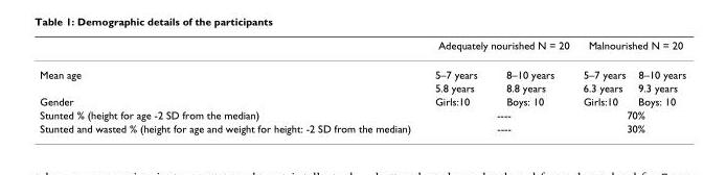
<table><thead><tr><td rowspan="2">Mean age</td><td colspan="2">Adequately nourished N = 20</td><td colspan="2">Malnourished N = 20</td></tr><tr><td>5–7 years</td><td>8–10 years</td><td>5–7 years</td><td>8–10 years</td></tr></thead><tbody><tr><td></td><td>5.8 years</td><td>8.8 years</td><td>6.3 years</td><td>9.3 years</td></tr><tr><td>Gender</td><td>Girls:10</td><td>Boys: 10</td><td>Girls:10</td><td>Boys: 10</td></tr><tr><td>Stunted % (height for age -2 SD from the median)</td><td colspan="2">----</td><td colspan="2">70%</td></tr><tr><td>Stunted and wasted % (height for age and weight for height: -2 SD from the median)</td><td colspan="2">----</td><td colspan="2">30%</td></tr></tbody></table>